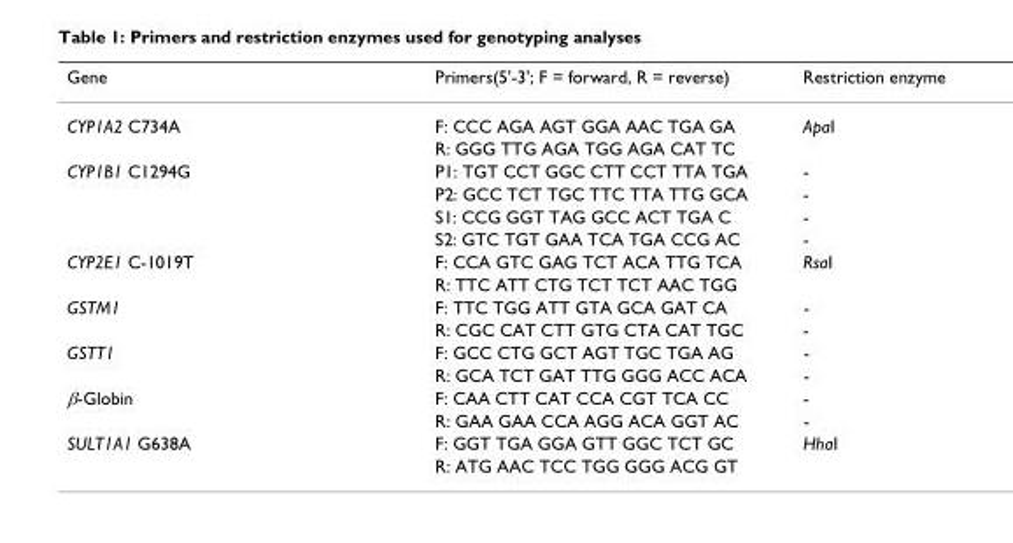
<table><thead><tr><td>Gene</td><td>Primers(5&#x27;-3&#x27;; F = forward, R = reverse)</td><td>Restriction enzyme</td></tr></thead><tbody><tr><td rowspan="2">CYP1A2 C734A</td><td>F: CCC AGA AGT GGA AAC TGA GA</td><td>ApaI</td></tr><tr><td>R: GGG TTG AGA TGG AGA CAT TC</td><td></td></tr><tr><td rowspan="4">CYP1B1 C1294G</td><td>P1: TGT CCT GGC CTT CCT TTA TGA</td><td>-</td></tr><tr><td>P2: GCC TCT TGC TTC TTA TTG GCA</td><td>-</td></tr><tr><td>S1: CCG GGT TAG GCC ACT TGA C</td><td>-</td></tr><tr><td>S2: GTC TGT GAA TCA TGA CCG AC</td><td>-</td></tr><tr><td rowspan="2">CYP2E1 C-1019T</td><td>F: CCA GTC GAG TCT ACA TTG TCA</td><td>RsaI</td></tr><tr><td>R: TTC ATT CTG TCT TCT AAC TGG</td><td></td></tr><tr><td rowspan="2">GSTM1</td><td>F: TTC TGG ATT GTA GCA GAT CA</td><td>-</td></tr><tr><td>R: CGC CAT CTT GTG CTA CAT TGC</td><td>-</td></tr><tr><td rowspan="2">GSTT1</td><td>F: GCC CTG GCT AGT TGC TGA AG</td><td>-</td></tr><tr><td>R: GCA TCT GAT TTG GGG ACC ACA</td><td>-</td></tr><tr><td rowspan="2">β-Globin</td><td>F: CAA CTT CAT CCA CGT TCA CC</td><td>-</td></tr><tr><td>R: GAA GAA CCA AGG ACA GGT AC</td><td>-</td></tr><tr><td rowspan="2">SULT1A1 G638A</td><td>F: GGT TGA GGA GTT GGC TCT GC</td><td>HhaI</td></tr><tr><td>R: ATG AAC TCC TGG GGG ACG GT</td><td></td></tr></tbody></table>